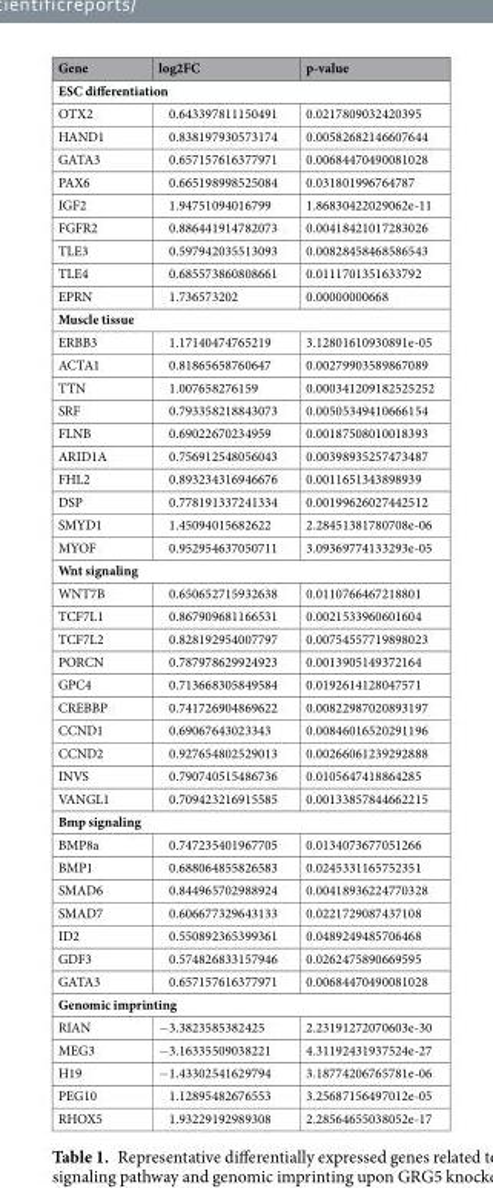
<table><thead><tr><td>Gene</td><td>log2FC</td><td>p-value</td></tr></thead><tbody><tr><td colspan="3">ESC differentiation</td></tr><tr><td>OTX2</td><td>0.643397811150491</td><td>0.0217809032420395</td></tr><tr><td>HAND1</td><td>0.838197930573174</td><td>0.00582682146607644</td></tr><tr><td>GATA3</td><td>0.657157616377971</td><td>0.00684470490081028</td></tr><tr><td>PAX6</td><td>0.665198998525084</td><td>0.031801996764787</td></tr><tr><td>IGF2</td><td>1.94751094016799</td><td>1.86830422029062e-11</td></tr><tr><td>FGFR2</td><td>0.886441914782073</td><td>0.00418421017283026</td></tr><tr><td>TLE3</td><td>0.597942035513093</td><td>0.00828458468586543</td></tr><tr><td>TLE4</td><td>0.685573860808661</td><td>0.0111701351633792</td></tr><tr><td>EPRN</td><td>1.736573202</td><td>0.00000000668</td></tr><tr><td colspan="3">Muscle tissue</td></tr><tr><td>ERBB3</td><td>1.17140474765219</td><td>3.12801610930891e-05</td></tr><tr><td>ACTA1</td><td>0.81865658760647</td><td>0.00279903589867089</td></tr><tr><td>TTN</td><td>1.007658276159</td><td>0.000341209182525252</td></tr><tr><td>SRF</td><td>0.793358218843073</td><td>0.00505349410666154</td></tr><tr><td>FLNB</td><td>0.69022670234959</td><td>0.00187508010018393</td></tr><tr><td>ARID1A</td><td>0.756912548056043</td><td>0.00398935257473487</td></tr><tr><td>FHL2</td><td>0.893234316946676</td><td>0.0011651343898939</td></tr><tr><td>DSP</td><td>0.778191337241334</td><td>0.00199626027442512</td></tr><tr><td>SMYD1</td><td>1.45094015682622</td><td>2.28451381780708e-06</td></tr><tr><td>MYOF</td><td>0.952954637050711</td><td>3.09369774133293e-05</td></tr><tr><td colspan="3">Wnt signaling</td></tr><tr><td>WNT7B</td><td>0.650652715932638</td><td>0.0110766467218801</td></tr><tr><td>TCF7L1</td><td>0.867909681166531</td><td>0.0021533960601604</td></tr><tr><td>TCF7L2</td><td>0.828192954007797</td><td>0.00754557719898023</td></tr><tr><td>PORCN</td><td>0.787978629924923</td><td>0.0013905149372164</td></tr><tr><td>GPC4</td><td>0.713668305849584</td><td>0.0192614128047571</td></tr><tr><td>CREBBP</td><td>0.741726904869622</td><td>0.00822987020893197</td></tr><tr><td>CCND1</td><td>0.69067643023343</td><td>0.00846016520291196</td></tr><tr><td>CCND2</td><td>0.927654802529013</td><td>0.00266061239292888</td></tr><tr><td>INVS</td><td>0.790740515486736</td><td>0.0105647418864285</td></tr><tr><td>VANGL1</td><td>0.709423216915585</td><td>0.00133857844662215</td></tr><tr><td colspan="3">Bmp signaling</td></tr><tr><td>BMP8a</td><td>0.747235401967705</td><td>0.0134073677051266</td></tr><tr><td>BMP1</td><td>0.688064855826583</td><td>0.0245331165752351</td></tr><tr><td>SMAD6</td><td>0.844965702988924</td><td>0.00418936224770328</td></tr><tr><td>SMAD7</td><td>0.606677329643133</td><td>0.0221729087437108</td></tr><tr><td>ID2</td><td>0.550892365399361</td><td>0.0489249485706468</td></tr><tr><td>GDF3</td><td>0.574826833157946</td><td>0.0262475890669595</td></tr><tr><td>GATA3</td><td>0.657157616377971</td><td>0.00684470490081028</td></tr><tr><td colspan="3">Genomic imprinting</td></tr><tr><td>RIAN</td><td>−3.3823585382425</td><td>2.23191272070603e-30</td></tr><tr><td>MEG3</td><td>−3.16335509038221</td><td>4.31192431937524e-27</td></tr><tr><td>H19</td><td>−1.43302541629794</td><td>3.18774206765781e-06</td></tr><tr><td>PEG10</td><td>1.12895482676553</td><td>3.25687156497012e-05</td></tr><tr><td>RHOX5</td><td>1.93229192989308</td><td>2.28564655038052e-17</td></tr></tbody></table>